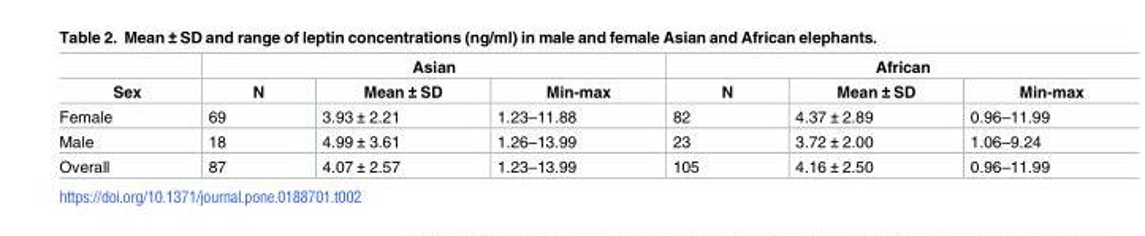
<table><thead><tr><td rowspan="2">Sex</td><td colspan="3">Asian</td><td colspan="3">African</td></tr><tr><td>N</td><td>Mean ± SD</td><td>Min-max</td><td>N</td><td>Mean ± SD</td><td>Min-max</td></tr></thead><tbody><tr><td>Female</td><td>69</td><td>3.93 ± 2.21</td><td>1.23–11.88</td><td>82</td><td>4.37 ± 2.89</td><td>0.96–11.99</td></tr><tr><td>Male</td><td>18</td><td>4.99 ± 3.61</td><td>1.26–13.99</td><td>23</td><td>3.72 ± 2.00</td><td>1.06–9.24</td></tr><tr><td>Overall</td><td>87</td><td>4.07 ± 2.57</td><td>1.23–13.99</td><td>105</td><td>4.16 ± 2.50</td><td>0.96–11.99</td></tr></tbody></table>